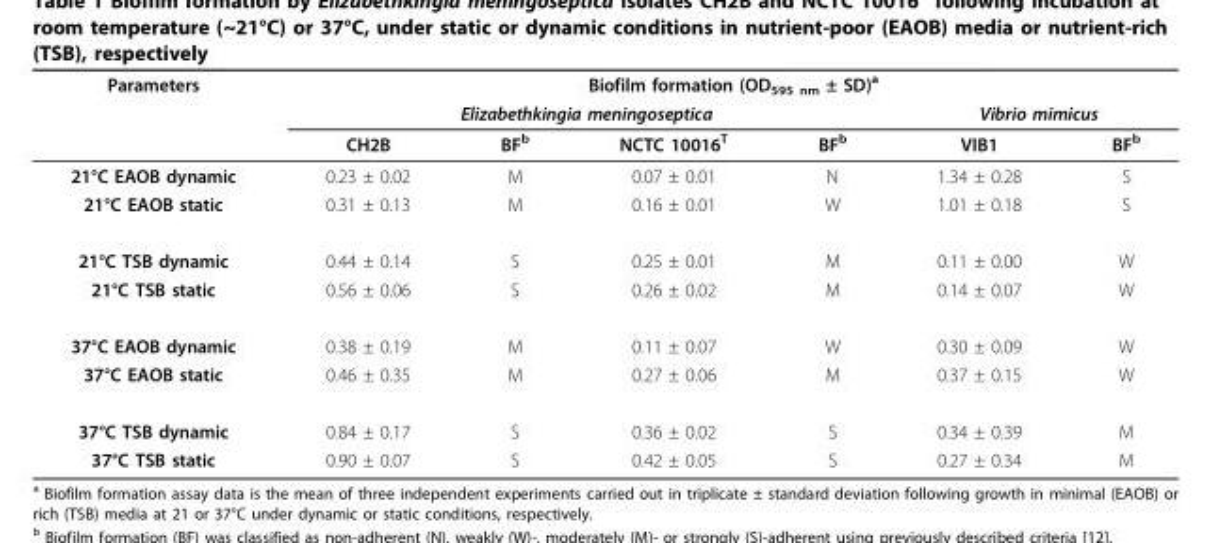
<table><thead><tr><td rowspan="3">Parameters</td><td colspan="6">Biofilm formation (OD<sub>595 nm</sub> ± SD)<sup>a</sup></td></tr><tr><td colspan="4">Elizabethkingia meningoseptica</td><td colspan="2">Vibrio mimicus</td></tr><tr><td>CH2B</td><td>BF<sup>b</sup></td><td>NCTC 10016<sup>T</sup></td><td>BF<sup>b</sup></td><td>VIB1</td><td>BF<sup>b</sup></td></tr></thead><tbody><tr><td>21°C EAOB dynamic</td><td>0.23 ± 0.02</td><td>M</td><td>0.07 ± 0.01</td><td>N</td><td>1.34 ± 0.28</td><td>S</td></tr><tr><td>21°C EAOB static</td><td>0.31 ± 0.13</td><td>M</td><td>0.16 ± 0.01</td><td>W</td><td>1.01 ± 0.18</td><td>S</td></tr><tr><td>21°C TSB dynamic</td><td>0.44 ± 0.14</td><td>S</td><td>0.25 ± 0.01</td><td>M</td><td>0.11 ± 0.00</td><td>W</td></tr><tr><td>21°C TSB static</td><td>0.56 ± 0.06</td><td>S</td><td>0.26 ± 0.02</td><td>M</td><td>0.14 ± 0.07</td><td>W</td></tr><tr><td>37°C EAOB dynamic</td><td>0.38 ± 0.19</td><td>M</td><td>0.11 ± 0.07</td><td>W</td><td>0.30 ± 0.09</td><td>W</td></tr><tr><td>37°C EAOB static</td><td>0.46 ± 0.35</td><td>M</td><td>0.27 ± 0.06</td><td>M</td><td>0.37 ± 0.15</td><td>W</td></tr><tr><td>37°C TSB dynamic</td><td>0.84 ± 0.17</td><td>S</td><td>0.36 ± 0.02</td><td>S</td><td>0.34 ± 0.39</td><td>M</td></tr><tr><td>37°C TSB static</td><td>0.90 ± 0.07</td><td>S</td><td>0.42 ± 0.05</td><td>S</td><td>0.27 ± 0.34</td><td>M</td></tr></tbody></table>